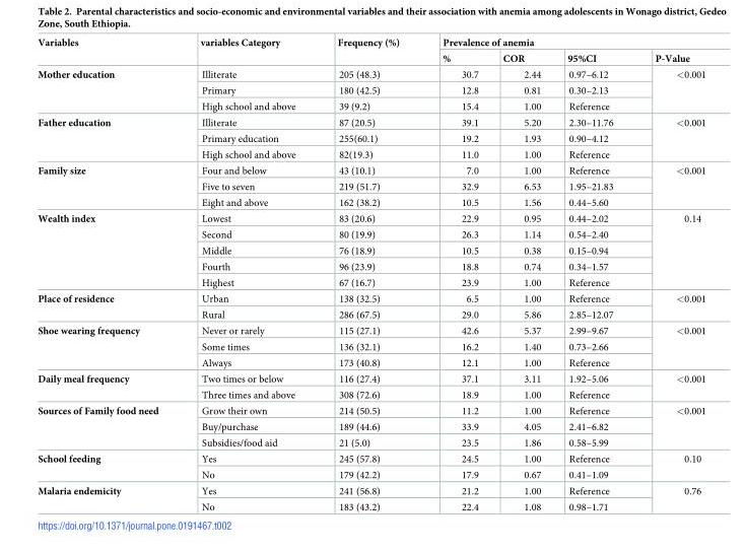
<table><thead><tr><td rowspan="2">Variables</td><td rowspan="2">variables Category</td><td rowspan="2">Frequency (%)</td><td colspan="4">Prevalence of anemia</td></tr><tr><td>%</td><td>COR</td><td>95%CI</td><td>P-Value</td></tr></thead><tbody><tr><td rowspan="3">Mother education</td><td>Illiterate</td><td>205 (48.3)</td><td>30.7</td><td>2.44</td><td>0.97–6.12</td><td rowspan="3">&lt;0.001</td></tr><tr><td>Primary</td><td>180 (42.5)</td><td>12.8</td><td>0.81</td><td>0.30–2.13</td></tr><tr><td>High school and above</td><td>39 (9.2)</td><td>15.4</td><td>1.00</td><td>Reference</td></tr><tr><td rowspan="3">Father education</td><td>Illiterate</td><td>87 (20.5)</td><td>39.1</td><td>5.20</td><td>2.30–11.76</td><td rowspan="3">&lt;0.001</td></tr><tr><td>Primary education</td><td>255(60.1)</td><td>19.2</td><td>1.93</td><td>0.90–4.12</td></tr><tr><td>High school and above</td><td>82(19.3)</td><td>11.0</td><td>1.00</td><td>Reference</td></tr><tr><td rowspan="3">Family size</td><td>Four and below</td><td>43 (10.1)</td><td>7.0</td><td>1.00</td><td>Reference</td><td rowspan="3">&lt;0.001</td></tr><tr><td>Five to seven</td><td>219 (51.7)</td><td>32.9</td><td>6.53</td><td>1.95–21.83</td></tr><tr><td>Eight and above</td><td>162 (38.2)</td><td>10.5</td><td>1.56</td><td>0.44–5.60</td></tr><tr><td rowspan="5">Wealth index</td><td>Lowest</td><td>83 (20.6)</td><td>22.9</td><td>0.95</td><td>0.44–2.02</td><td rowspan="5">0.14</td></tr><tr><td>Second</td><td>80 (19.9)</td><td>26.3</td><td>1.14</td><td>0.54–2.40</td></tr><tr><td>Middle</td><td>76 (18.9)</td><td>10.5</td><td>0.38</td><td>0.15–0.94</td></tr><tr><td>Fourth</td><td>96 (23.9)</td><td>18.8</td><td>0.74</td><td>0.34–1.57</td></tr><tr><td>Highest</td><td>67 (16.7)</td><td>23.9</td><td>1.00</td><td>Reference</td></tr><tr><td rowspan="2">Place of residence</td><td>Urban</td><td>138 (32.5)</td><td>6.5</td><td>1.00</td><td>Reference</td><td rowspan="2">&lt;0.001</td></tr><tr><td>Rural</td><td>286 (67.5)</td><td>29.0</td><td>5.86</td><td>2.85–12.07</td></tr><tr><td rowspan="3">Shoe wearing frequency</td><td>Never or rarely</td><td>115 (27.1)</td><td>42.6</td><td>5.37</td><td>2.99–9.67</td><td rowspan="3">&lt;0.001</td></tr><tr><td>Some times</td><td>136 (32.1)</td><td>16.2</td><td>1.40</td><td>0.73–2.66</td></tr><tr><td>Always</td><td>173 (40.8)</td><td>12.1</td><td>1.00</td><td>Reference</td></tr><tr><td rowspan="2">Daily meal frequency</td><td>Two times or below</td><td>116 (27.4)</td><td>37.1</td><td>3.11</td><td>1.92–5.06</td><td rowspan="2">&lt;0.001</td></tr><tr><td>Three times and above</td><td>308 (72.6)</td><td>18.9</td><td>1.00</td><td>Reference</td></tr><tr><td rowspan="3">Sources of Family food need</td><td>Grow their own</td><td>214 (50.5)</td><td>11.2</td><td>1.00</td><td>Reference</td><td rowspan="3">&lt;0.001</td></tr><tr><td>Buy/purchase</td><td>189 (44.6)</td><td>33.9</td><td>4.05</td><td>2.41–6.82</td></tr><tr><td>Subsidies/food aid</td><td>21 (5.0)</td><td>23.5</td><td>1.86</td><td>0.58–5.99</td></tr><tr><td rowspan="2">School feeding</td><td>Yes</td><td>245 (57.8)</td><td>24.5</td><td>1.00</td><td>Reference</td><td rowspan="2">0.10</td></tr><tr><td>No</td><td>179 (42.2)</td><td>17.9</td><td>0.67</td><td>0.41–1.09</td></tr><tr><td rowspan="2">Malaria endemicity</td><td>Yes</td><td>241 (56.8)</td><td>21.2</td><td>1.00</td><td>Reference</td><td rowspan="2">0.76</td></tr><tr><td>No</td><td>183 (43.2)</td><td>22.4</td><td>1.08</td><td>0.98–1.71</td></tr></tbody></table>